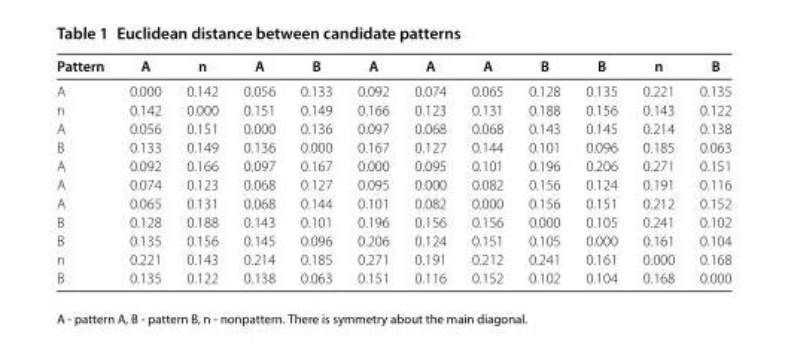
<table><thead><tr><td>Pattern</td><td>A</td><td>n</td><td>A</td><td>B</td><td>A</td><td>A</td><td>A</td><td>B</td><td>B</td><td>n</td><td>B</td></tr></thead><tbody><tr><td>A</td><td>0.000</td><td>0.142</td><td>0.056</td><td>0.133</td><td>0.092</td><td>0.074</td><td>0.065</td><td>0.128</td><td>0.135</td><td>0.221</td><td>0.135</td></tr><tr><td>n</td><td>0.142</td><td>0.000</td><td>0.151</td><td>0.149</td><td>0.166</td><td>0.123</td><td>0.131</td><td>0.188</td><td>0.156</td><td>0.143</td><td>0.122</td></tr><tr><td>A</td><td>0.056</td><td>0.151</td><td>0.000</td><td>0.136</td><td>0.097</td><td>0.068</td><td>0.068</td><td>0.143</td><td>0.145</td><td>0.214</td><td>0.138</td></tr><tr><td>B</td><td>0.133</td><td>0.149</td><td>0.136</td><td>0.000</td><td>0.167</td><td>0.127</td><td>0.144</td><td>0.101</td><td>0.096</td><td>0.185</td><td>0.063</td></tr><tr><td>A</td><td>0.092</td><td>0.166</td><td>0.097</td><td>0.167</td><td>0.000</td><td>0.095</td><td>0.101</td><td>0.196</td><td>0.206</td><td>0.271</td><td>0.151</td></tr><tr><td>A</td><td>0.074</td><td>0.123</td><td>0.068</td><td>0.127</td><td>0.095</td><td>0.000</td><td>0.082</td><td>0.156</td><td>0.124</td><td>0.191</td><td>0.116</td></tr><tr><td>A</td><td>0.065</td><td>0.131</td><td>0.068</td><td>0.144</td><td>0.101</td><td>0.082</td><td>0.000</td><td>0.156</td><td>0.151</td><td>0.212</td><td>0.152</td></tr><tr><td>B</td><td>0.128</td><td>0.188</td><td>0.143</td><td>0.101</td><td>0.196</td><td>0.156</td><td>0.156</td><td>0.000</td><td>0.105</td><td>0.241</td><td>0.102</td></tr><tr><td>B</td><td>0.135</td><td>0.156</td><td>0.145</td><td>0.096</td><td>0.206</td><td>0.124</td><td>0.151</td><td>0.105</td><td>0.000</td><td>0.161</td><td>0.104</td></tr><tr><td>n</td><td>0.221</td><td>0.143</td><td>0.214</td><td>0.185</td><td>0.271</td><td>0.191</td><td>0.212</td><td>0.241</td><td>0.161</td><td>0.000</td><td>0.168</td></tr><tr><td>B</td><td>0.135</td><td>0.122</td><td>0.138</td><td>0.063</td><td>0.151</td><td>0.116</td><td>0.152</td><td>0.102</td><td>0.104</td><td>0.168</td><td>0.000</td></tr></tbody></table>